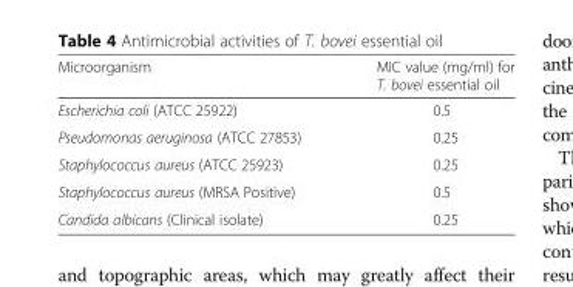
<table><thead><tr><td>Microorganism</td><td>MIC value (mg/ml) for T. bovei essential oil</td></tr></thead><tbody><tr><td>Escherichia coli (ATCC 25922)</td><td>0.5</td></tr><tr><td>Pseudomonas aeruginosa (ATCC 27853)</td><td>0.25</td></tr><tr><td>Staphylococcus aureus (ATCC 25923)</td><td>0.25</td></tr><tr><td>Staphylococcus aureus (MRSA Positive)</td><td>0.5</td></tr><tr><td>Candida albicans (Clinical isolate)</td><td>0.25</td></tr></tbody></table>